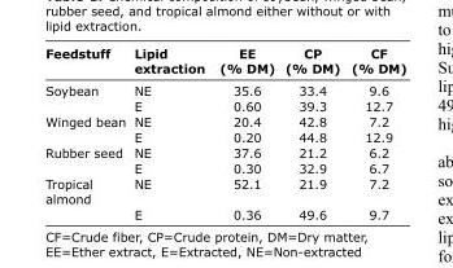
<table><thead><tr><td>Feedstuff</td><td>Lipid extraction</td><td>EE (% DM)</td><td>CP (% DM)</td><td>CF (% DM)</td></tr></thead><tbody><tr><td rowspan="2">Soybean</td><td>NE</td><td>35.6</td><td>33.4</td><td>9.6</td></tr><tr><td>E</td><td>0.60</td><td>39.3</td><td>12.7</td></tr><tr><td rowspan="2">Winged bean</td><td>NE</td><td>20.4</td><td>42.8</td><td>7.2</td></tr><tr><td>E</td><td>0.20</td><td>44.8</td><td>12.9</td></tr><tr><td rowspan="2">Rubber seed</td><td>NE</td><td>37.6</td><td>21.2</td><td>6.2</td></tr><tr><td>E</td><td>0.30</td><td>32.9</td><td>6.7</td></tr><tr><td rowspan="2">Tropical almond</td><td>NE</td><td>52.1</td><td>21.9</td><td>7.2</td></tr><tr><td>E</td><td>0.36</td><td>49.6</td><td>9.7</td></tr></tbody></table>